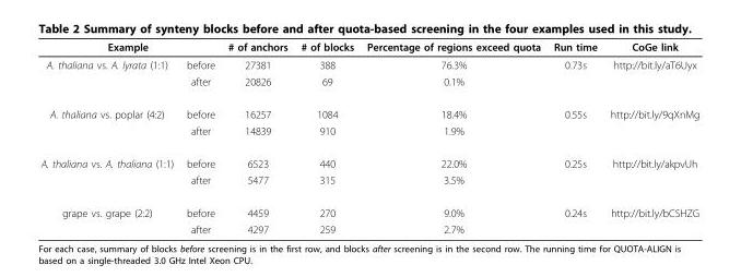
<table><thead><tr><td colspan="2">Example</td><td rowspan="2"># of anchors 27381</td><td rowspan="2"># of blocks 388</td><td rowspan="2">Percentage of regions exceed quota 76.3%</td><td rowspan="2">Run time 0.73s</td><td rowspan="2">CoGe link http://bit.ly/aT6Uyx</td></tr><tr><td>A. thaliana vs. A. lyrata (1:1)</td><td>before</td></tr></thead><tbody><tr><td></td><td>after</td><td>20826</td><td>69</td><td>0.1%</td><td></td><td></td></tr><tr><td rowspan="2">A. thaliana vs. poplar (4:2)</td><td>before</td><td>16257</td><td>1084</td><td>18.4%</td><td>0.55s</td><td>http://bit.ly/9qXnMg</td></tr><tr><td>after</td><td>14839</td><td>910</td><td>1.9%</td><td></td><td></td></tr><tr><td rowspan="2">A. thaliana vs. A. thaliana (1:1)</td><td>before</td><td>6523</td><td>440</td><td>22.0%</td><td>0.25s</td><td>http://bit.ly/akpvUh</td></tr><tr><td>after</td><td>5477</td><td>315</td><td>3.5%</td><td></td><td></td></tr><tr><td rowspan="2">grape vs. grape (2:2)</td><td>before</td><td>4459</td><td>270</td><td>9.0%</td><td>0.24s</td><td>http://bit.ly/bCSHZG</td></tr><tr><td>after</td><td>4297</td><td>259</td><td>2.7%</td><td></td><td></td></tr></tbody></table>